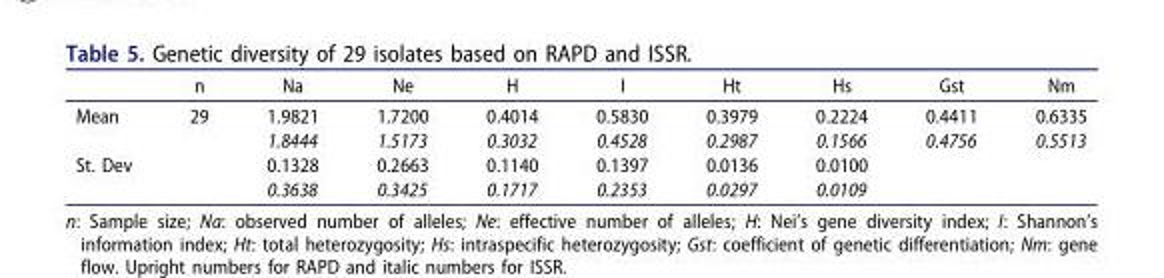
<table><thead><tr><td></td><td>n</td><td>Na</td><td>Ne</td><td>H</td><td>I</td><td>Ht</td><td>Hs</td><td>Gst</td><td>Nm</td></tr></thead><tbody><tr><td rowspan="2">Mean</td><td rowspan="2">29</td><td>1.9821</td><td>1.7200</td><td>0.4014</td><td>0.5830</td><td>0.3979</td><td>0.2224</td><td>0.4411</td><td>0.6335</td></tr><tr><td>1.8444</td><td>1.5173</td><td>0.3032</td><td>0.4528</td><td>0.2987</td><td>0.1566</td><td>0.4756</td><td>0.5513</td></tr><tr><td rowspan="2">St. Dev</td><td rowspan="2"></td><td>0.1328</td><td>0.2663</td><td>0.1140</td><td>0.1397</td><td>0.0136</td><td>0.0100</td><td></td><td></td></tr><tr><td>0.3638</td><td>0.3425</td><td>0.1717</td><td>0.2353</td><td>0.0297</td><td>0.0109</td><td></td><td></td></tr></tbody></table>